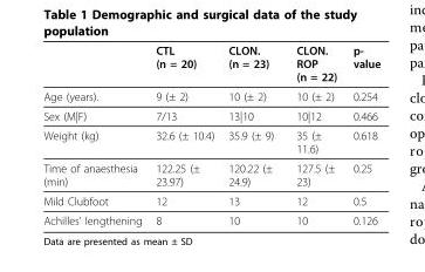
<table><thead><tr><td></td><td>CTL (n = 20)</td><td>CLON. (n = 23)</td><td>CLON. ROP (n = 22)</td><td>p- value</td></tr></thead><tbody><tr><td>Age (years).</td><td>9 (± 2)</td><td>10 (± 2)</td><td>10 (± 2)</td><td>0.254</td></tr><tr><td>Sex (M|F)</td><td>7/13</td><td>13|10</td><td>10|12</td><td>0.466</td></tr><tr><td>Weight (kg)</td><td>32.6 (± 10.4)</td><td>35.9 (± 9)</td><td>35 (± 11.6)</td><td>0.618</td></tr><tr><td>Time of anaesthesia (min)</td><td>122.25 (± 23.97)</td><td>120.22 (± 24.9)</td><td>127.5 (± 23)</td><td>0.25</td></tr><tr><td>Mild Clubfoot</td><td>12</td><td>13</td><td>12</td><td>0.5</td></tr><tr><td>Achilles’ lengthening</td><td>8</td><td>10</td><td>10</td><td>0.126</td></tr></tbody></table>